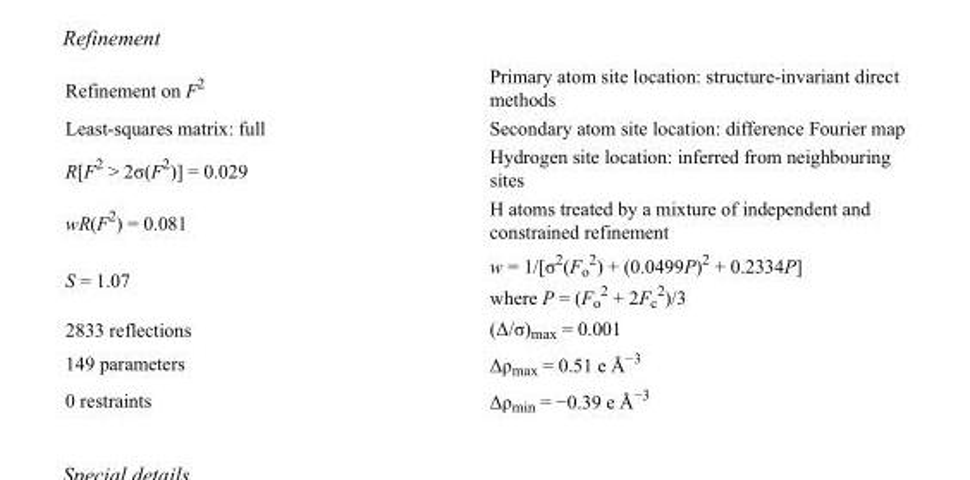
<table><tbody><tr><td>Refinement on F<sup>2</sup></td><td>Primary atom site location: structure-invariant direct methods</td></tr><tr><td>Least-squares matrix: full</td><td>Secondary atom site location: difference Fourier map</td></tr><tr><td>R[F<sup>2</sup> &gt; 2σ(F<sup>2</sup>)] = 0.029</td><td>Hydrogen site location: inferred from neighbouring sites</td></tr><tr><td>wR(F<sup>2</sup>) = 0.081</td><td>H atoms treated by a mixture of independent and constrained refinement</td></tr><tr><td>S = 1.07</td><td>w = 1/[σ<sup>2</sup>(F<sub>o</sub> <sup>2</sup>) + (0.0499P)<sup>2</sup> + 0.2334P] where P = (F<sub>o</sub> <sup>2</sup> + 2F<sub>c</sub> <sup>2</sup>)/3</td></tr><tr><td>2833 reflections</td><td>(Δ/σ)<sub>max</sub> = 0.001</td></tr><tr><td>149 parameters</td><td>Δρ<sub>max</sub> = 0.51 e Å<sup>−3</sup></td></tr><tr><td>0 restraints</td><td>Δρ<sub>min</sub> = −0.39 e Å<sup>−3</sup></td></tr></tbody></table>